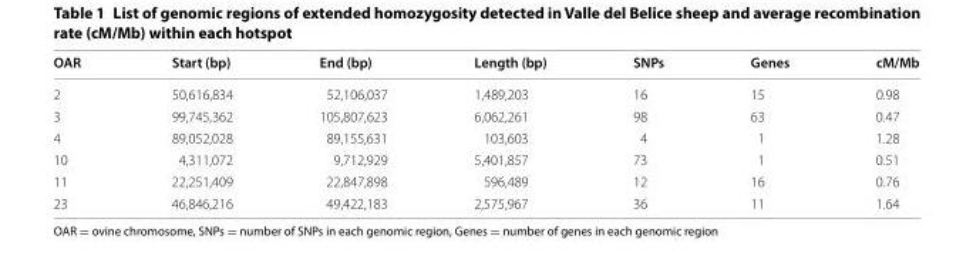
<table><thead><tr><td>OAR</td><td>Start (bp)</td><td>End (bp)</td><td>Length (bp)</td><td>SNPs</td><td>Genes</td><td>cM/Mb</td></tr></thead><tbody><tr><td>2</td><td>50,616,834</td><td>52,106,037</td><td>1,489,203</td><td>16</td><td>15</td><td>0.98</td></tr><tr><td>3</td><td>99,745,362</td><td>105,807,623</td><td>6,062,261</td><td>98</td><td>63</td><td>0.47</td></tr><tr><td>4</td><td>89,052,028</td><td>89,155,631</td><td>103,603</td><td>4</td><td>1</td><td>1.28</td></tr><tr><td>10</td><td>4,311,072</td><td>9,712,929</td><td>5,401,857</td><td>73</td><td>1</td><td>0.51</td></tr><tr><td>11</td><td>22,251,409</td><td>22,847,898</td><td>596,489</td><td>12</td><td>16</td><td>0.76</td></tr><tr><td>23</td><td>46,846,216</td><td>49,422,183</td><td>2,575,967</td><td>36</td><td>11</td><td>1.64</td></tr></tbody></table>